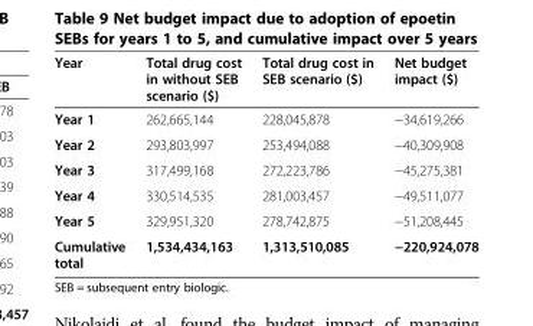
<table><thead><tr><td>Year</td><td>Total drug cost in without SEB scenario ($)</td><td>Total drug cost in SEB scenario ($)</td><td>Net budget impact ($)</td></tr></thead><tbody><tr><td>Year 1</td><td>262,665,144</td><td>228,045,878</td><td>−34,619,266</td></tr><tr><td>Year 2</td><td>293,803,997</td><td>253,494,088</td><td>−40,309,908</td></tr><tr><td>Year 3</td><td>317,499,168</td><td>272,223,786</td><td>−45,275,381</td></tr><tr><td>Year 4</td><td>330,514,535</td><td>281,003,457</td><td>−49,511,077</td></tr><tr><td>Year 5</td><td>329,951,320</td><td>278,742,875</td><td>−51,208,445</td></tr><tr><td>Cumulative total</td><td>1,534,434,163</td><td>1,313,510,085</td><td>−220,924,078</td></tr></tbody></table>